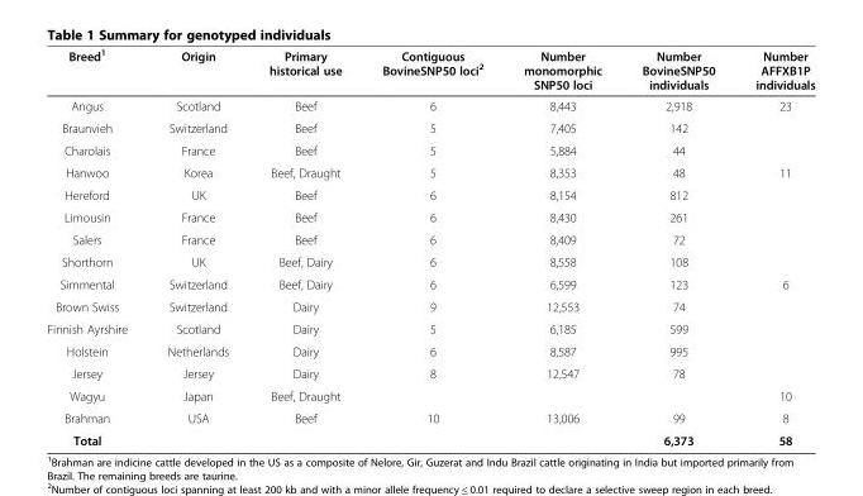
<table><thead><tr><td>Breed<sup>1</sup></td><td>Origin</td><td>Primary historical use</td><td>Contiguous BovineSNP50 loci<sup>2</sup></td><td>Number monomorphic SNP50 loci</td><td>Number BovineSNP50 individuals</td><td>Number AFFXB1P individuals</td></tr></thead><tbody><tr><td>Angus</td><td>Scotland</td><td>Beef</td><td>6</td><td>8,443</td><td>2,918</td><td>23</td></tr><tr><td>Braunvieh</td><td>Switzerland</td><td>Beef</td><td>5</td><td>7,405</td><td>142</td><td></td></tr><tr><td>Charolais</td><td>France</td><td>Beef</td><td>5</td><td>5,884</td><td>44</td><td></td></tr><tr><td>Hanwoo</td><td>Korea</td><td>Beef, Draught</td><td>5</td><td>8,353</td><td>48</td><td>11</td></tr><tr><td>Hereford</td><td>UK</td><td>Beef</td><td>6</td><td>8,154</td><td>812</td><td></td></tr><tr><td>Limousin</td><td>France</td><td>Beef</td><td>6</td><td>8,430</td><td>261</td><td></td></tr><tr><td>Salers</td><td>France</td><td>Beef</td><td>6</td><td>8,409</td><td>72</td><td></td></tr><tr><td>Shorthorn</td><td>UK</td><td>Beef, Dairy</td><td>6</td><td>8,558</td><td>108</td><td></td></tr><tr><td>Simmental</td><td>Switzerland</td><td>Beef, Dairy</td><td>6</td><td>6,599</td><td>123</td><td>6</td></tr><tr><td>Brown Swiss</td><td>Switzerland</td><td>Dairy</td><td>9</td><td>12,553</td><td>74</td><td></td></tr><tr><td>Finnish Ayrshire</td><td>Scotland</td><td>Dairy</td><td>5</td><td>6,185</td><td>599</td><td></td></tr><tr><td>Holstein</td><td>Netherlands</td><td>Dairy</td><td>6</td><td>8,587</td><td>995</td><td></td></tr><tr><td>Jersey</td><td>Jersey</td><td>Dairy</td><td>8</td><td>12,547</td><td>78</td><td></td></tr><tr><td>Wagyu</td><td>Japan</td><td>Beef, Draught</td><td></td><td></td><td></td><td>10</td></tr><tr><td>Brahman</td><td>USA</td><td>Beef</td><td>10</td><td>13,006</td><td>99</td><td>8</td></tr><tr><td>Total</td><td></td><td></td><td></td><td></td><td>6,373</td><td>58</td></tr></tbody></table>